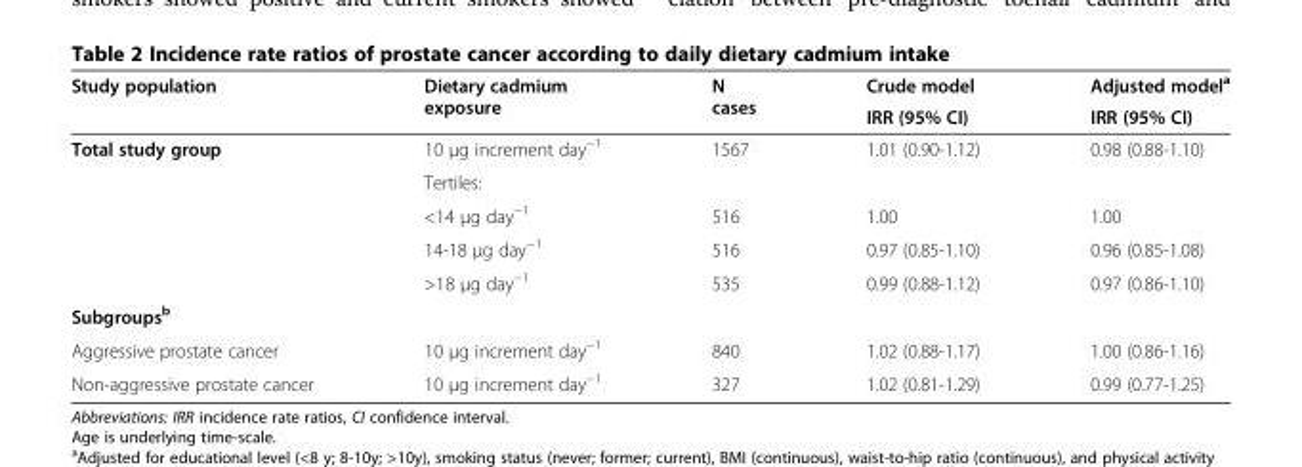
<table><thead><tr><td rowspan="2">Study population</td><td rowspan="2">Dietary cadmium exposure</td><td rowspan="2">N cases</td><td rowspan="2">Crude model IRR (95% CI)</td><td rowspan="2">Adjusted model<sup>a</sup> IRR (95% CI)</td></tr><tr></tr></thead><tbody><tr><td rowspan="5">Total study group</td><td>10 μg increment day<sup>−1</sup></td><td>1567</td><td>1.01 (0.90-1.12)</td><td>0.98 (0.88-1.10)</td></tr><tr><td>Tertiles:</td><td></td><td></td><td></td></tr><tr><td>&lt;14 μg day<sup>−1</sup></td><td>516</td><td>1.00</td><td>1.00</td></tr><tr><td>14-18 μg day<sup>−1</sup></td><td>516</td><td>0.97 (0.85-1.10)</td><td>0.96 (0.85-1.08)</td></tr><tr><td>&gt;18 μg day<sup>−1</sup></td><td>535</td><td>0.99 (0.88-1.12)</td><td>0.97 (0.86-1.10)</td></tr><tr><td colspan="5">Subgroups<sup>b</sup></td></tr><tr><td>Aggressive prostate cancer</td><td>10 μg increment day<sup>−1</sup></td><td>840</td><td>1.02 (0.88-1.17)</td><td>1.00 (0.86-1.16)</td></tr><tr><td>Non-aggressive prostate cancer</td><td>10 μg increment day<sup>−1</sup></td><td>327</td><td>1.02 (0.81-1.29)</td><td>0.99 (0.77-1.25)</td></tr></tbody></table>